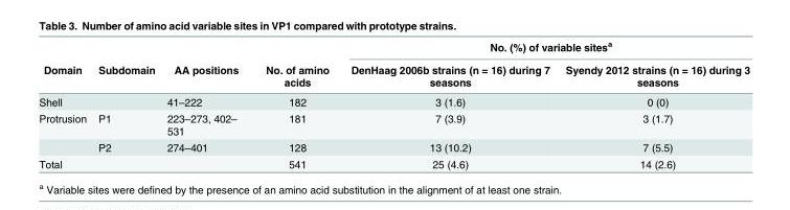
<table><thead><tr><td rowspan="2">Domain</td><td rowspan="2">Subdomain</td><td rowspan="2">AA positions</td><td rowspan="2">No. of amino acids</td><td colspan="2">No. (%) of variable sites<sup>a</sup></td></tr><tr><td>DenHaag 2006b strains (n = 16) during 7 seasons</td><td>Syendy 2012 strains (n = 16) during 3 seasons</td></tr></thead><tbody><tr><td>Shell</td><td></td><td>41–222</td><td>182</td><td>3 (1.6)</td><td>0 (0)</td></tr><tr><td rowspan="2">Protrusion</td><td>P1</td><td>223–273, 402– 531</td><td>181</td><td>7 (3.9)</td><td>3 (1.7)</td></tr><tr><td>P2</td><td>274–401</td><td>128</td><td>13 (10.2)</td><td>7 (5.5)</td></tr><tr><td>Total</td><td></td><td></td><td>541</td><td>25 (4.6)</td><td>14 (2.6)</td></tr></tbody></table>